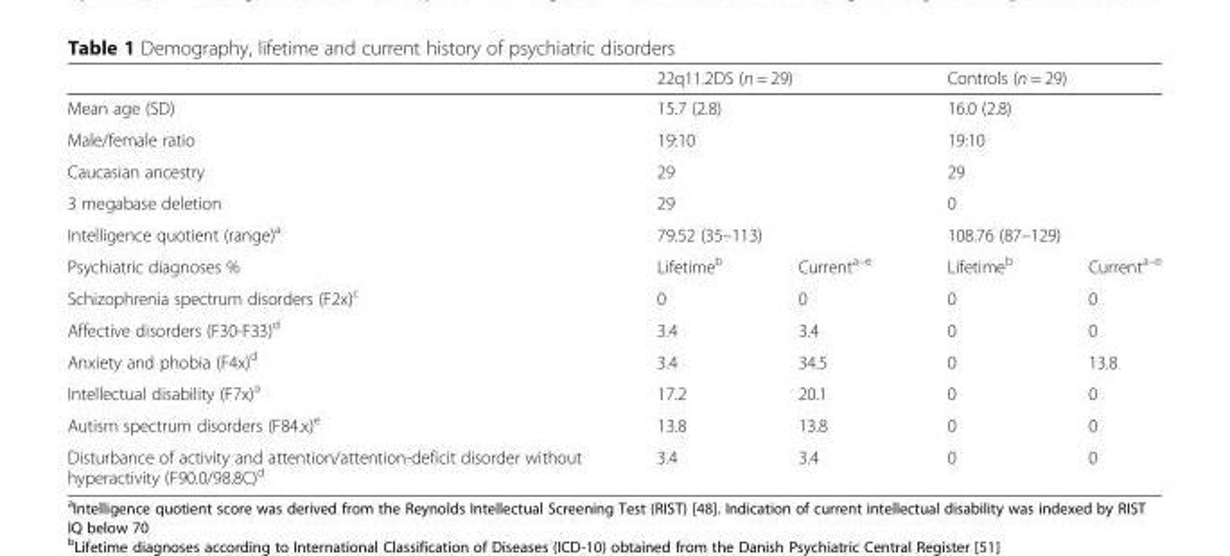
<table><thead><tr><td></td><td colspan="2">22q11.2DS (n = 29)</td><td colspan="2">Controls (n = 29)</td></tr></thead><tbody><tr><td>Mean age (SD)</td><td colspan="2">15.7 (2.8)</td><td colspan="2">16.0 (2.8)</td></tr><tr><td>Male/female ratio</td><td colspan="2">19:10</td><td colspan="2">19:10</td></tr><tr><td>Caucasian ancestry</td><td colspan="2">29</td><td colspan="2">29</td></tr><tr><td>3 megabase deletion</td><td colspan="2">29</td><td colspan="2">0</td></tr><tr><td>Intelligence quotient (range)<sup>a</sup></td><td colspan="2">79.52 (35–113)</td><td colspan="2">108.76 (87–129)</td></tr><tr><td>Psychiatric diagnoses %</td><td>Lifetime<sup>b</sup></td><td>Current<sup>a–e</sup></td><td>Lifetime<sup>b</sup></td><td>Current<sup>a–e</sup></td></tr><tr><td>Schizophrenia spectrum disorders (F2x)<sup>c</sup></td><td>0</td><td>0</td><td>0</td><td>0</td></tr><tr><td>Affective disorders (F30-F33)<sup>d</sup></td><td>3.4</td><td>3.4</td><td>0</td><td>0</td></tr><tr><td>Anxiety and phobia (F4x)<sup>d</sup></td><td>3.4</td><td>34.5</td><td>0</td><td>13.8</td></tr><tr><td>Intellectual disability (F7x)<sup>a</sup></td><td>17.2</td><td>20.1</td><td>0</td><td>0</td></tr><tr><td>Autism spectrum disorders (F84.x)<sup>e</sup></td><td>13.8</td><td>13.8</td><td>0</td><td>0</td></tr><tr><td>Disturbance of activity and attention/attention-deficit disorder without hyperactivity (F90.0/98.8C)<sup>d</sup></td><td>3.4</td><td>3.4</td><td>0</td><td>0</td></tr></tbody></table>